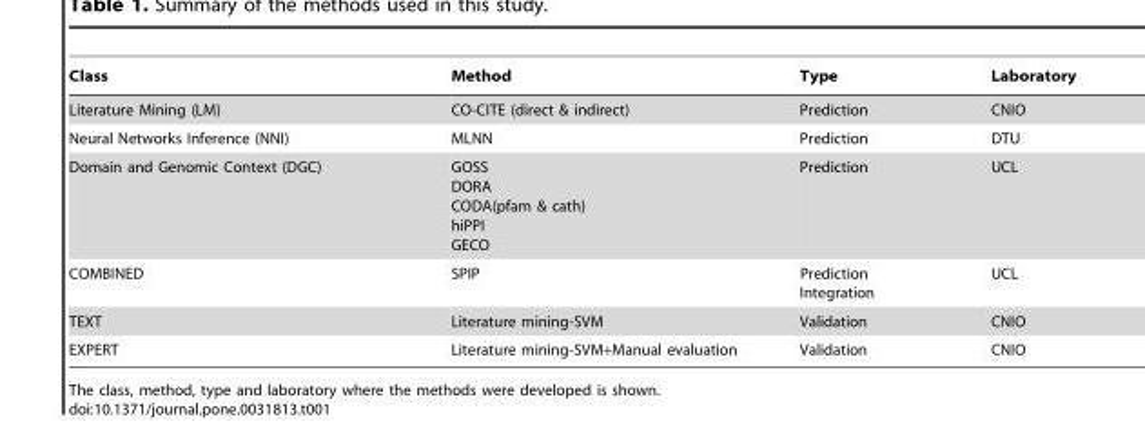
<table><thead><tr><td>Class</td><td>Method</td><td>Type</td><td>Laboratory</td></tr></thead><tbody><tr><td>Literature Mining (LM)</td><td>CO-CITE (direct &amp; indirect)</td><td>Prediction</td><td>CNIO</td></tr><tr><td>Neural Networks Inference (NNI)</td><td>MLNN</td><td>Prediction</td><td>DTU</td></tr><tr><td>Domain and Genomic Context (DGC)</td><td>GOSS DORA CODA(pfam &amp; cath) hiPPI GECO</td><td>Prediction</td><td>UCL</td></tr><tr><td>COMBINED</td><td>SPIP</td><td>Prediction Integration</td><td>UCL</td></tr><tr><td>TEXT</td><td>Literature mining-SVM</td><td>Validation</td><td>CNIO</td></tr><tr><td>EXPERT</td><td>Literature mining-SVM+Manual evaluation</td><td>Validation</td><td>CNIO</td></tr></tbody></table>